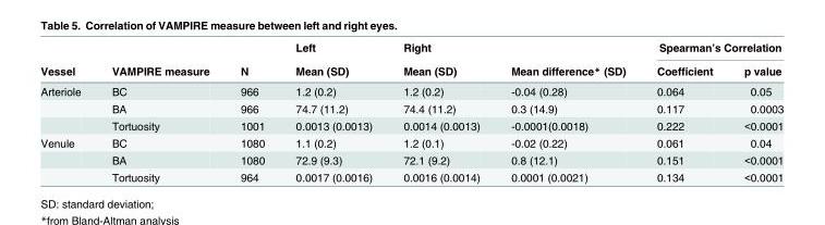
<table><thead><tr><td rowspan="2">Vessel</td><td rowspan="2">VAMPIRE measure</td><td rowspan="2">N</td><td rowspan="2">Left Mean (SD)</td><td rowspan="2">Right Mean (SD)</td><td rowspan="2">Mean difference* (SD)</td><td colspan="2">Spearman’s Correlation</td></tr><tr><td>Coefficient</td><td>p value</td></tr></thead><tbody><tr><td rowspan="3">Arteriole</td><td>BC</td><td>966</td><td>1.2 (0.2)</td><td>1.2 (0.2)</td><td>-0.04 (0.28)</td><td>0.064</td><td>0.05</td></tr><tr><td>BA</td><td>966</td><td>74.7 (11.2)</td><td>74.4 (11.2)</td><td>0.3 (14.9)</td><td>0.117</td><td>0.0003</td></tr><tr><td>Tortuosity</td><td>1001</td><td>0.0013 (0.0013)</td><td>0.0014 (0.0013)</td><td>-0.0001(0.0018)</td><td>0.222</td><td>&lt;0.0001</td></tr><tr><td rowspan="3">Venule</td><td>BC</td><td>1080</td><td>1.1 (0.2)</td><td>1.2 (0.1)</td><td>-0.02 (0.22)</td><td>0.061</td><td>0.04</td></tr><tr><td>BA</td><td>1080</td><td>72.9 (9.3)</td><td>72.1 (9.2)</td><td>0.8 (12.1)</td><td>0.151</td><td>&lt;0.0001</td></tr><tr><td>Tortuosity</td><td>964</td><td>0.0017 (0.0016)</td><td>0.0016 (0.0014)</td><td>0.0001 (0.0021)</td><td>0.134</td><td>&lt;0.0001</td></tr></tbody></table>